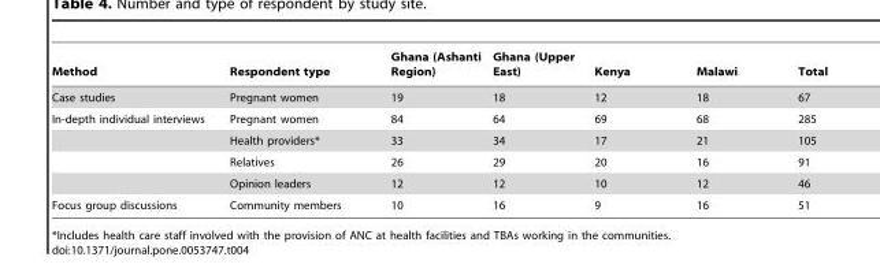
<table><thead><tr><td>Method</td><td>Respondent type</td><td>Ghana (Ashanti Region)</td><td>Ghana (Upper East)</td><td>Kenya</td><td>Malawi</td><td>Total</td></tr></thead><tbody><tr><td>Case studies</td><td>Pregnant women</td><td>19</td><td>18</td><td>12</td><td>18</td><td>67</td></tr><tr><td rowspan="4">In-depth individual interviews</td><td>Pregnant women</td><td>84</td><td>64</td><td>69</td><td>68</td><td>285</td></tr><tr><td>Health providers*</td><td>33</td><td>34</td><td>17</td><td>21</td><td>105</td></tr><tr><td>Relatives</td><td>26</td><td>29</td><td>20</td><td>16</td><td>91</td></tr><tr><td>Opinion leaders</td><td>12</td><td>12</td><td>10</td><td>12</td><td>46</td></tr><tr><td>Focus group discussions</td><td>Community members</td><td>10</td><td>16</td><td>9</td><td>16</td><td>51</td></tr></tbody></table>